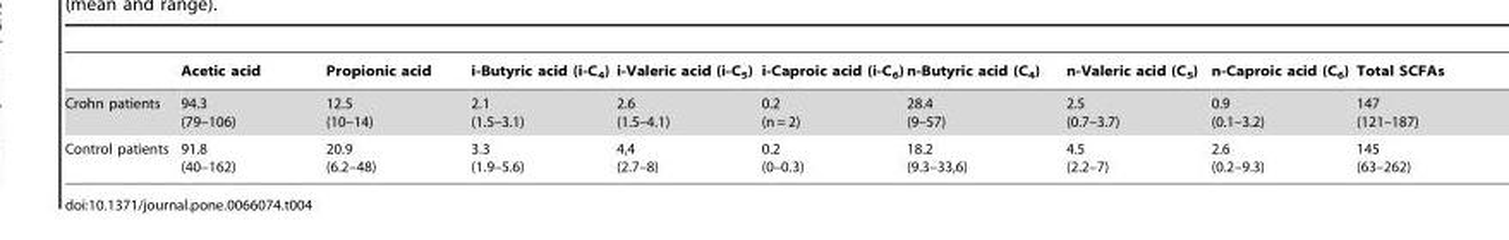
<table><thead><tr><td></td><td>Acetic acid</td><td>Propionic acid</td><td>i-Butyric acid (i-C<sub>4</sub>)</td><td>i-Valeric acid (i-C<sub>5</sub>)</td><td>i-Caproic acid (i-C<sub>6</sub>)</td><td>n-Butyric acid (C<sub>4</sub>)</td><td>n-Valeric acid (C<sub>5</sub>)</td><td>n-Caproic acid (C<sub>6</sub>)</td><td>Total SCFAs</td></tr></thead><tbody><tr><td>Crohn patients</td><td>94.3 (79–106)</td><td>12.5 (10–14)</td><td>2.1 (1.5–3.1)</td><td>2.6 (1.5–4.1)</td><td>0.2 (n = 2)</td><td>28.4 (9–57)</td><td>2.5 (0.7–3.7)</td><td>0.9 (0.1–3.2)</td><td>147 (121–187)</td></tr><tr><td>Control patients</td><td>91.8 (40–162)</td><td>20.9 (6.2–48)</td><td>3.3 (1.9–5.6)</td><td>4,4 (2.7–8)</td><td>0.2 (0–0.3)</td><td>18.2 (9.3–33,6)</td><td>4.5 (2.2–7)</td><td>2.6 (0.2–9.3)</td><td>145 (63–262)</td></tr></tbody></table>